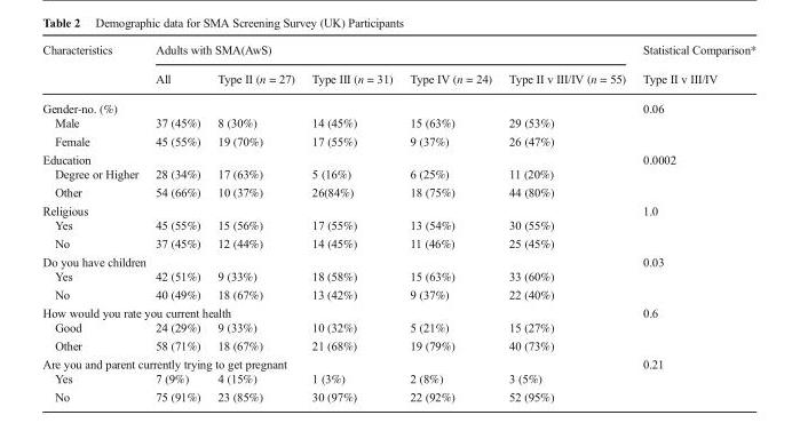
<table><thead><tr><td rowspan="2">Characteristics</td><td colspan="5">Adults with SMA(AwS)</td><td rowspan="2">Statistical Comparison* Type II v III/IV</td></tr><tr><td>All</td><td>Type II (n = 27)</td><td>Type III (n = 31)</td><td>Type IV (n = 24)</td><td>Type II v III/IV (n = 55)</td></tr></thead><tbody><tr><td colspan="6">Gender-no. (%)</td><td rowspan="3">0.06</td></tr><tr><td>Male</td><td>37 (45%)</td><td>8 (30%)</td><td>14 (45%)</td><td>15 (63%)</td><td>29 (53%)</td></tr><tr><td>Female</td><td>45 (55%)</td><td>19 (70%)</td><td>17 (55%)</td><td>9 (37%)</td><td>26 (47%)</td></tr><tr><td colspan="6">Education</td><td rowspan="3">0.0002</td></tr><tr><td>Degree or Higher</td><td>28 (34%)</td><td>17 (63%)</td><td>5 (16%)</td><td>6 (25%)</td><td>11 (20%)</td></tr><tr><td>Other</td><td>54 (66%)</td><td>10 (37%)</td><td>26(84%)</td><td>18 (75%)</td><td>44 (80%)</td></tr><tr><td colspan="6">Religious</td><td rowspan="3">1.0</td></tr><tr><td>Yes</td><td>45 (55%)</td><td>15 (56%)</td><td>17 (55%)</td><td>13 (54%)</td><td>30 (55%)</td></tr><tr><td>No</td><td>37 (45%)</td><td>12 (44%)</td><td>14 (45%)</td><td>11 (46%)</td><td>25 (45%)</td></tr><tr><td colspan="6">Do you have children</td><td rowspan="3">0.03</td></tr><tr><td>Yes</td><td>42 (51%)</td><td>9 (33%)</td><td>18 (58%)</td><td>15 (63%)</td><td>33 (60%)</td></tr><tr><td>No</td><td>40 (49%)</td><td>18 (67%)</td><td>13 (42%)</td><td>9 (37%)</td><td>22 (40%)</td></tr><tr><td colspan="6">How would you rate you current health</td><td rowspan="3">0.6</td></tr><tr><td>Good</td><td>24 (29%)</td><td>9 (33%)</td><td>10 (32%)</td><td>5 (21%)</td><td>15 (27%)</td></tr><tr><td>Other</td><td>58 (71%)</td><td>18 (67%)</td><td>21 (68%)</td><td>19 (79%)</td><td>40 (73%)</td></tr><tr><td colspan="6">Are you and parent currently trying to get pregnant</td><td rowspan="3">0.21</td></tr><tr><td>Yes</td><td>7 (9%)</td><td>4 (15%)</td><td>1 (3%)</td><td>2 (8%)</td><td>3 (5%)</td></tr><tr><td>No</td><td>75 (91%)</td><td>23 (85%)</td><td>30 (97%)</td><td>22 (92%)</td><td>52 (95%)</td></tr></tbody></table>